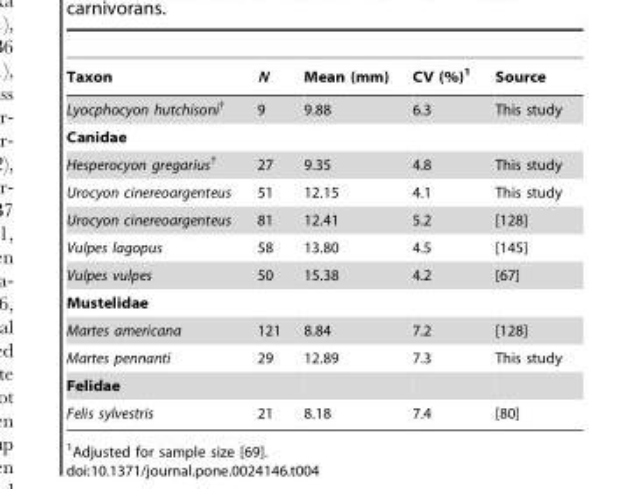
<table><thead><tr><td>Taxon</td><td>N</td><td>Mean (mm)</td><td>CV (%)<sup>1</sup></td><td>Source</td></tr></thead><tbody><tr><td>Lyocphocyon hutchisoni<sup>†</sup></td><td>9</td><td>9.88</td><td>6.3</td><td>This study</td></tr><tr><td colspan="5">Canidae</td></tr><tr><td>Hesperocyon gregarius<sup>†</sup></td><td>27</td><td>9.35</td><td>4.8</td><td>This study</td></tr><tr><td>Urocyon cinereoargenteus</td><td>51</td><td>12.15</td><td>4.1</td><td>This study</td></tr><tr><td>Urocyon cinereoargenteus</td><td>81</td><td>12.41</td><td>5.2</td><td>[128]</td></tr><tr><td>Vulpes lagopus</td><td>58</td><td>13.80</td><td>4.5</td><td>[145]</td></tr><tr><td>Vulpes vulpes</td><td>50</td><td>15.38</td><td>4.2</td><td>[67]</td></tr><tr><td colspan="5">Mustelidae</td></tr><tr><td>Martes americana</td><td>121</td><td>8.84</td><td>7.2</td><td>[128]</td></tr><tr><td>Martes pennanti</td><td>29</td><td>12.89</td><td>7.3</td><td>This study</td></tr><tr><td colspan="5">Felidae</td></tr><tr><td>Felis sylvestris</td><td>21</td><td>8.18</td><td>7.4</td><td>[80]</td></tr></tbody></table>